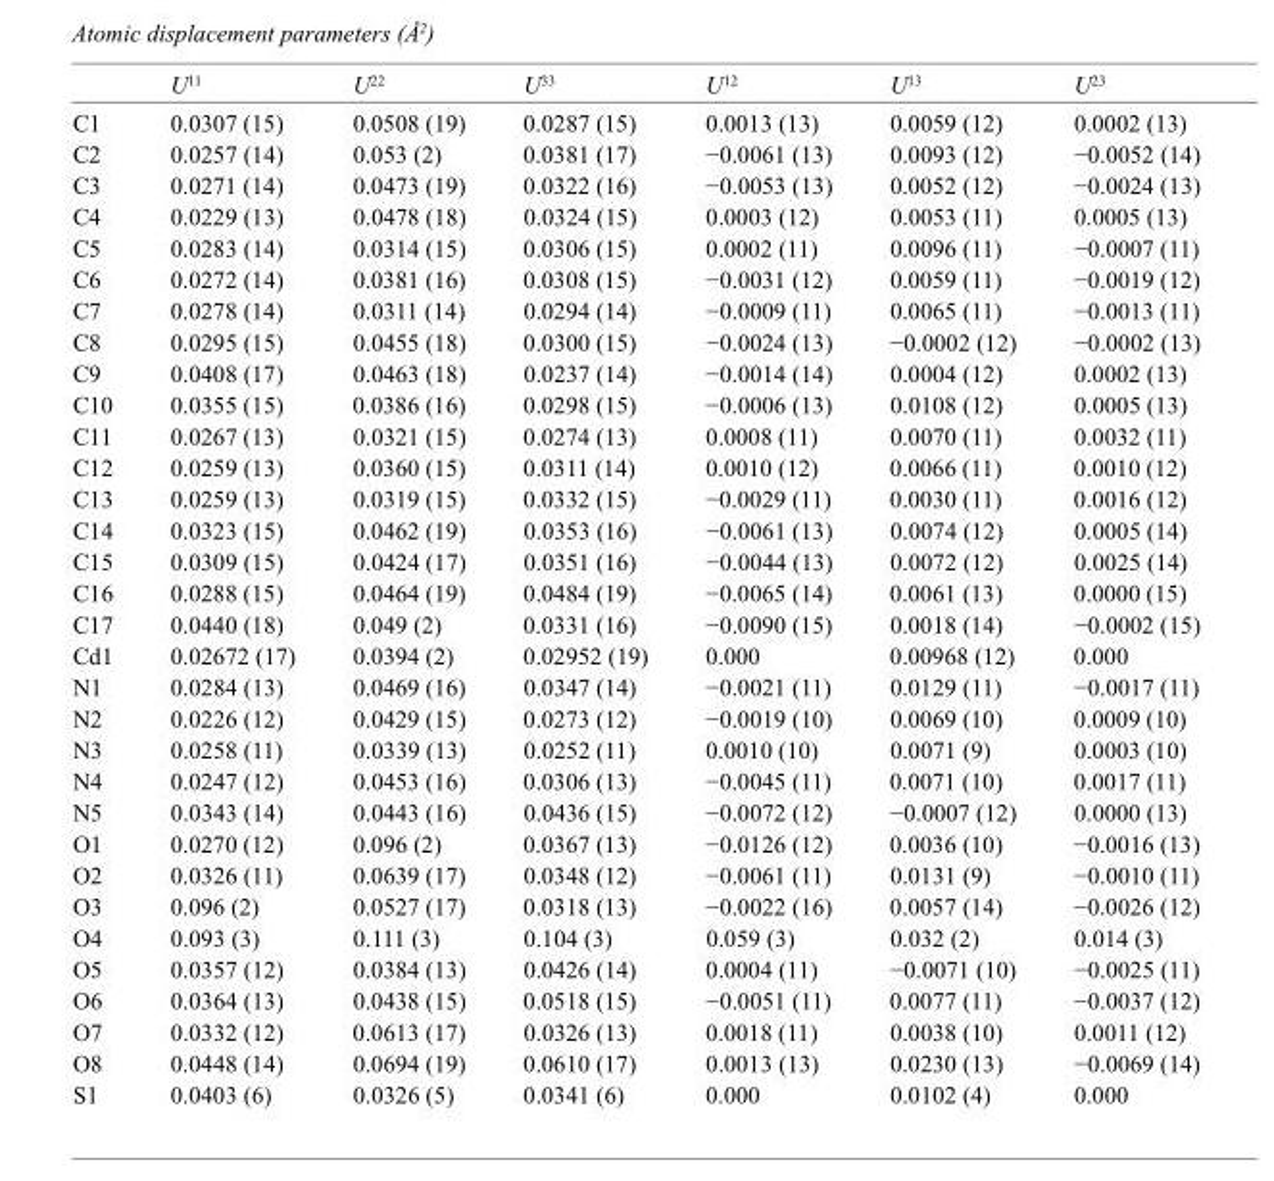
<table><thead><tr><td></td><td>U<sup>11</sup></td><td>U<sup>22</sup></td><td>U<sup>33</sup></td><td>U<sup>12</sup></td><td>U<sup>13</sup></td><td>U<sup>23</sup></td></tr></thead><tbody><tr><td>C1</td><td>0.0307 (15)</td><td>0.0508 (19)</td><td>0.0287 (15)</td><td>0.0013 (13)</td><td>0.0059 (12)</td><td>0.0002 (13)</td></tr><tr><td>C2</td><td>0.0257 (14)</td><td>0.053 (2)</td><td>0.0381 (17)</td><td>−0.0061 (13)</td><td>0.0093 (12)</td><td>−0.0052 (14)</td></tr><tr><td>C3</td><td>0.0271 (14)</td><td>0.0473 (19)</td><td>0.0322 (16)</td><td>−0.0053 (13)</td><td>0.0052 (12)</td><td>−0.0024 (13)</td></tr><tr><td>C4</td><td>0.0229 (13)</td><td>0.0478 (18)</td><td>0.0324 (15)</td><td>0.0003 (12)</td><td>0.0053 (11)</td><td>0.0005 (13)</td></tr><tr><td>C5</td><td>0.0283 (14)</td><td>0.0314 (15)</td><td>0.0306 (15)</td><td>0.0002 (11)</td><td>0.0096 (11)</td><td>−0.0007 (11)</td></tr><tr><td>C6</td><td>0.0272 (14)</td><td>0.0381 (16)</td><td>0.0308 (15)</td><td>−0.0031 (12)</td><td>0.0059 (11)</td><td>−0.0019 (12)</td></tr><tr><td>C7</td><td>0.0278 (14)</td><td>0.0311 (14)</td><td>0.0294 (14)</td><td>−0.0009 (11)</td><td>0.0065 (11)</td><td>−0.0013 (11)</td></tr><tr><td>C8</td><td>0.0295 (15)</td><td>0.0455 (18)</td><td>0.0300 (15)</td><td>−0.0024 (13)</td><td>−0.0002 (12)</td><td>−0.0002 (13)</td></tr><tr><td>C9</td><td>0.0408 (17)</td><td>0.0463 (18)</td><td>0.0237 (14)</td><td>−0.0014 (14)</td><td>0.0004 (12)</td><td>0.0002 (13)</td></tr><tr><td>C10</td><td>0.0355 (15)</td><td>0.0386 (16)</td><td>0.0298 (15)</td><td>−0.0006 (13)</td><td>0.0108 (12)</td><td>0.0005 (13)</td></tr><tr><td>C11</td><td>0.0267 (13)</td><td>0.0321 (15)</td><td>0.0274 (13)</td><td>0.0008 (11)</td><td>0.0070 (11)</td><td>0.0032 (11)</td></tr><tr><td>C12</td><td>0.0259 (13)</td><td>0.0360 (15)</td><td>0.0311 (14)</td><td>0.0010 (12)</td><td>0.0066 (11)</td><td>0.0010 (12)</td></tr><tr><td>C13</td><td>0.0259 (13)</td><td>0.0319 (15)</td><td>0.0332 (15)</td><td>−0.0029 (11)</td><td>0.0030 (11)</td><td>0.0016 (12)</td></tr><tr><td>C14</td><td>0.0323 (15)</td><td>0.0462 (19)</td><td>0.0353 (16)</td><td>−0.0061 (13)</td><td>0.0074 (12)</td><td>0.0005 (14)</td></tr><tr><td>C15</td><td>0.0309 (15)</td><td>0.0424 (17)</td><td>0.0351 (16)</td><td>−0.0044 (13)</td><td>0.0072 (12)</td><td>0.0025 (14)</td></tr><tr><td>C16</td><td>0.0288 (15)</td><td>0.0464 (19)</td><td>0.0484 (19)</td><td>−0.0065 (14)</td><td>0.0061 (13)</td><td>0.0000 (15)</td></tr><tr><td>C17</td><td>0.0440 (18)</td><td>0.049 (2)</td><td>0.0331 (16)</td><td>−0.0090 (15)</td><td>0.0018 (14)</td><td>−0.0002 (15)</td></tr><tr><td>Cd1</td><td>0.02672 (17)</td><td>0.0394 (2)</td><td>0.02952 (19)</td><td>0.000</td><td>0.00968 (12)</td><td>0.000</td></tr><tr><td>N1</td><td>0.0284 (13)</td><td>0.0469 (16)</td><td>0.0347 (14)</td><td>−0.0021 (11)</td><td>0.0129 (11)</td><td>−0.0017 (11)</td></tr><tr><td>N2</td><td>0.0226 (12)</td><td>0.0429 (15)</td><td>0.0273 (12)</td><td>−0.0019 (10)</td><td>0.0069 (10)</td><td>0.0009 (10)</td></tr><tr><td>N3</td><td>0.0258 (11)</td><td>0.0339 (13)</td><td>0.0252 (11)</td><td>0.0010 (10)</td><td>0.0071 (9)</td><td>0.0003 (10)</td></tr><tr><td>N4</td><td>0.0247 (12)</td><td>0.0453 (16)</td><td>0.0306 (13)</td><td>−0.0045 (11)</td><td>0.0071 (10)</td><td>0.0017 (11)</td></tr><tr><td>N5</td><td>0.0343 (14)</td><td>0.0443 (16)</td><td>0.0436 (15)</td><td>−0.0072 (12)</td><td>−0.0007 (12)</td><td>0.0000 (13)</td></tr><tr><td>O1</td><td>0.0270 (12)</td><td>0.096 (2)</td><td>0.0367 (13)</td><td>−0.0126 (12)</td><td>0.0036 (10)</td><td>−0.0016 (13)</td></tr><tr><td>O2</td><td>0.0326 (11)</td><td>0.0639 (17)</td><td>0.0348 (12)</td><td>−0.0061 (11)</td><td>0.0131 (9)</td><td>−0.0010 (11)</td></tr><tr><td>O3</td><td>0.096 (2)</td><td>0.0527 (17)</td><td>0.0318 (13)</td><td>−0.0022 (16)</td><td>0.0057 (14)</td><td>−0.0026 (12)</td></tr><tr><td>O4</td><td>0.093 (3)</td><td>0.111 (3)</td><td>0.104 (3)</td><td>0.059 (3)</td><td>0.032 (2)</td><td>0.014 (3)</td></tr><tr><td>O5</td><td>0.0357 (12)</td><td>0.0384 (13)</td><td>0.0426 (14)</td><td>0.0004 (11)</td><td>−0.0071 (10)</td><td>−0.0025 (11)</td></tr><tr><td>O6</td><td>0.0364 (13)</td><td>0.0438 (15)</td><td>0.0518 (15)</td><td>−0.0051 (11)</td><td>0.0077 (11)</td><td>−0.0037 (12)</td></tr><tr><td>O7</td><td>0.0332 (12)</td><td>0.0613 (17)</td><td>0.0326 (13)</td><td>0.0018 (11)</td><td>0.0038 (10)</td><td>0.0011 (12)</td></tr><tr><td>O8</td><td>0.0448 (14)</td><td>0.0694 (19)</td><td>0.0610 (17)</td><td>0.0013 (13)</td><td>0.0230 (13)</td><td>−0.0069 (14)</td></tr><tr><td>S1</td><td>0.0403 (6)</td><td>0.0326 (5)</td><td>0.0341 (6)</td><td>0.000</td><td>0.0102 (4)</td><td>0.000</td></tr></tbody></table>